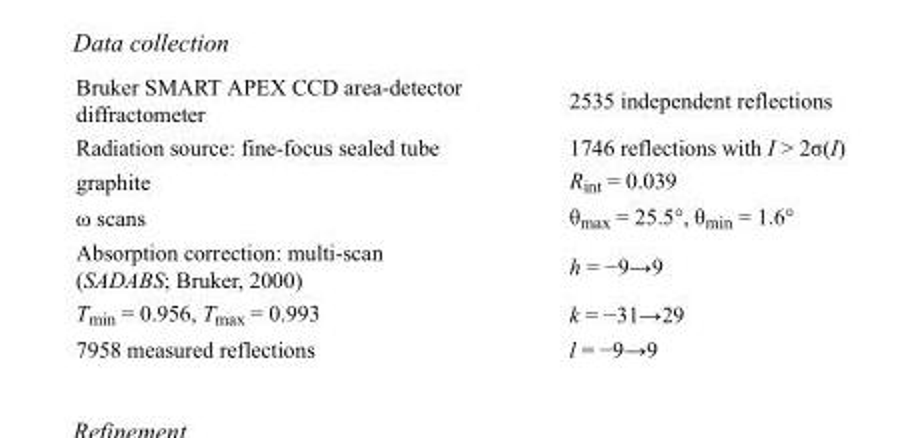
<table><tbody><tr><td>Bruker SMART APEX CCD area-detector diffractometer</td><td>2535 independent reflections</td></tr><tr><td>Radiation source: fine-focus sealed tube</td><td>1746 reflections with I &gt; 2σ(I)</td></tr><tr><td>graphite</td><td>R<sub>int</sub> = 0.039</td></tr><tr><td>ω scans</td><td>θ<sub>max</sub> = 25.5°, θ<sub>min</sub> = 1.6°</td></tr><tr><td>Absorption correction: multi-scan (SADABS; Bruker, 2000)</td><td>h = −9→9</td></tr><tr><td>T<sub>min</sub> = 0.956, T<sub>max</sub> = 0.993</td><td>k = −31→29</td></tr><tr><td>7958 measured reflections</td><td>l = −9→9</td></tr></tbody></table>